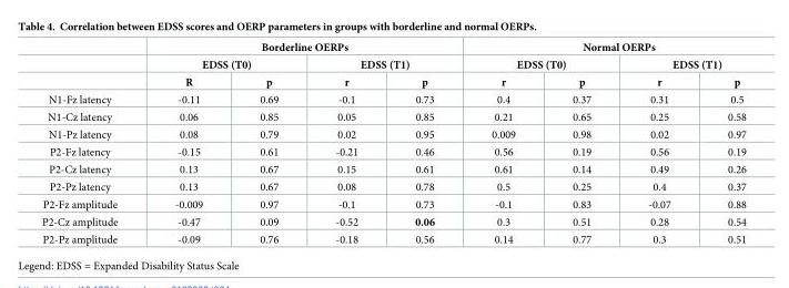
<table><thead><tr><td rowspan="3"></td><td colspan="4">Borderline OERPs</td><td colspan="4">Normal OERPs</td></tr><tr><td colspan="2">EDSS (T0)</td><td colspan="2">EDSS (T1)</td><td colspan="2">EDSS (T0)</td><td colspan="2">EDSS (T1)</td></tr><tr><td>R</td><td>p</td><td>r</td><td>p</td><td>r</td><td>p</td><td>r</td><td>p</td></tr></thead><tbody><tr><td>N1-Fz latency</td><td>-0.11</td><td>0.69</td><td>-0.1</td><td>0.73</td><td>0.4</td><td>0.37</td><td>0.31</td><td>0.5</td></tr><tr><td>N1-Cz latency</td><td>0.06</td><td>0.85</td><td>0.05</td><td>0.85</td><td>0.21</td><td>0.65</td><td>0.25</td><td>0.58</td></tr><tr><td>N1-Pz latency</td><td>0.08</td><td>0.79</td><td>0.02</td><td>0.95</td><td>0.009</td><td>0.98</td><td>0.02</td><td>0.97</td></tr><tr><td>P2-Fz latency</td><td>-0.15</td><td>0.61</td><td>-0.21</td><td>0.46</td><td>0.56</td><td>0.19</td><td>0.56</td><td>0.19</td></tr><tr><td>P2-Cz latency</td><td>0.13</td><td>0.67</td><td>0.15</td><td>0.61</td><td>0.61</td><td>0.14</td><td>0.49</td><td>0.26</td></tr><tr><td>P2-Pz latency</td><td>0.13</td><td>0.67</td><td>0.08</td><td>0.78</td><td>0.5</td><td>0.25</td><td>0.4</td><td>0.37</td></tr><tr><td>P2-Fz amplitude</td><td>-0.009</td><td>0.97</td><td>-0.1</td><td>0.73</td><td>-0.1</td><td>0.83</td><td>-0.07</td><td>0.88</td></tr><tr><td>P2-Cz amplitude</td><td>-0.47</td><td>0.09</td><td>-0.52</td><td>0.06</td><td>0.3</td><td>0.51</td><td>0.28</td><td>0.54</td></tr><tr><td>P2-Pz amplitude</td><td>-0.09</td><td>0.76</td><td>-0.18</td><td>0.56</td><td>0.14</td><td>0.77</td><td>0.3</td><td>0.51</td></tr></tbody></table>